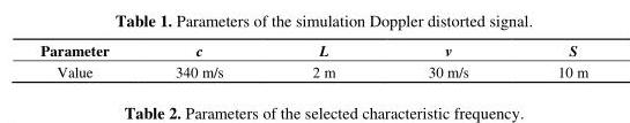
<table><thead><tr><td>Parameter</td><td>c</td><td>L</td><td>v</td><td>S</td></tr></thead><tbody><tr><td>Value</td><td>340 m/s</td><td>2 m</td><td>30 m/s</td><td>10 m</td></tr></tbody></table>